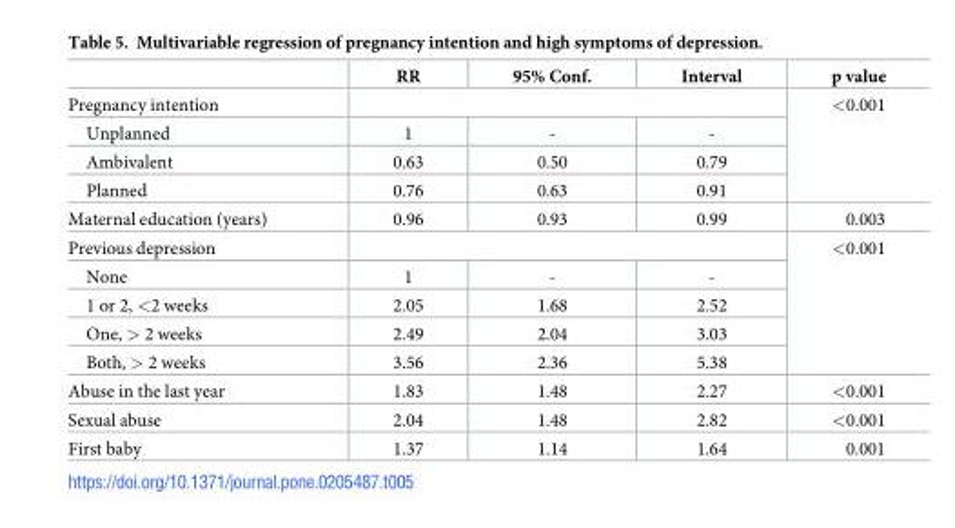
<table><thead><tr><td></td><td>RR</td><td>95% Conf.</td><td>Interval</td><td>p value</td></tr></thead><tbody><tr><td colspan="4">Pregnancy intention</td><td rowspan="4">&lt;0.001</td></tr><tr><td>Unplanned</td><td>1</td><td>-</td><td>-</td></tr><tr><td>Ambivalent</td><td>0.63</td><td>0.50</td><td>0.79</td></tr><tr><td>Planned</td><td>0.76</td><td>0.63</td><td>0.91</td></tr><tr><td>Maternal education (years)</td><td>0.96</td><td>0.93</td><td>0.99</td><td>0.003</td></tr><tr><td colspan="4">Previous depression</td><td rowspan="5">&lt;0.001</td></tr><tr><td>None</td><td>1</td><td>-</td><td>-</td></tr><tr><td>1 or 2, &lt;2 weeks</td><td>2.05</td><td>1.68</td><td>2.52</td></tr><tr><td>One, &gt; 2 weeks</td><td>2.49</td><td>2.04</td><td>3.03</td></tr><tr><td>Both, &gt; 2 weeks</td><td>3.56</td><td>2.36</td><td>5.38</td></tr><tr><td>Abuse in the last year</td><td>1.83</td><td>1.48</td><td>2.27</td><td>&lt;0.001</td></tr><tr><td>Sexual abuse</td><td>2.04</td><td>1.48</td><td>2.82</td><td>&lt;0.001</td></tr><tr><td>First baby</td><td>1.37</td><td>1.14</td><td>1.64</td><td>0.001</td></tr></tbody></table>